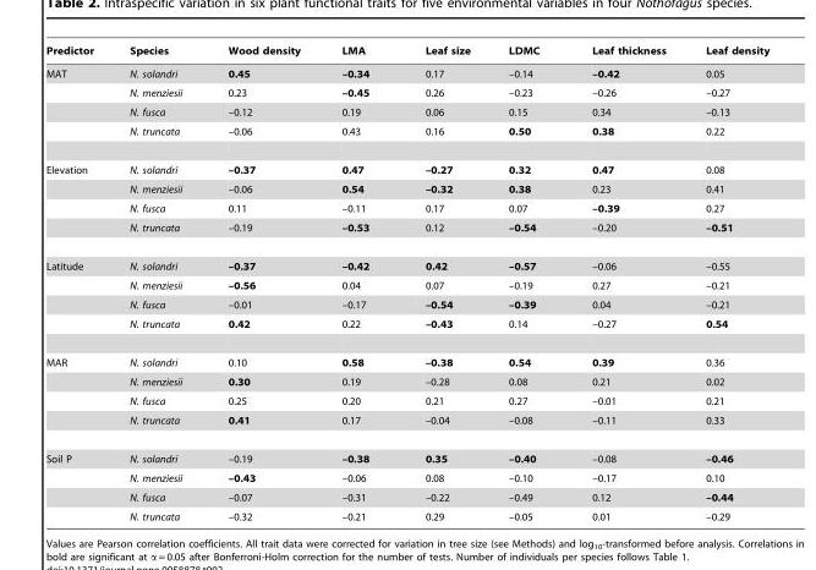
<table><thead><tr><td>Predictor</td><td>Species</td><td>Wood density</td><td>LMA</td><td>Leaf size</td><td>LDMC</td><td>Leaf thickness</td><td>Leaf density</td></tr></thead><tbody><tr><td rowspan="4">MAT</td><td>N. solandri</td><td>0.45</td><td>–0.34</td><td>0.17</td><td>–0.14</td><td>–0.42</td><td>0.05</td></tr><tr><td>N. menziesii</td><td>0.23</td><td>–0.45</td><td>0.26</td><td>–0.23</td><td>–0.26</td><td>–0.27</td></tr><tr><td>N. fusca</td><td>–0.12</td><td>0.19</td><td>0.06</td><td>0.15</td><td>0.34</td><td>–0.13</td></tr><tr><td>N. truncata</td><td>–0.06</td><td>0.43</td><td>0.16</td><td>0.50</td><td>0.38</td><td>0.22</td></tr><tr><td rowspan="4">Elevation</td><td>N. solandri</td><td>–0.37</td><td>0.47</td><td>–0.27</td><td>0.32</td><td>0.47</td><td>0.08</td></tr><tr><td>N. menziesii</td><td>–0.06</td><td>0.54</td><td>–0.32</td><td>0.38</td><td>0.23</td><td>0.41</td></tr><tr><td>N. fusca</td><td>0.11</td><td>–0.11</td><td>0.17</td><td>0.07</td><td>–0.39</td><td>0.27</td></tr><tr><td>N. truncata</td><td>–0.19</td><td>–0.53</td><td>0.12</td><td>–0.54</td><td>–0.20</td><td>–0.51</td></tr><tr><td rowspan="4">Latitude</td><td>N. solandri</td><td>–0.37</td><td>–0.42</td><td>0.42</td><td>–0.57</td><td>–0.06</td><td>–0.55</td></tr><tr><td>N. menziesii</td><td>–0.56</td><td>0.04</td><td>0.07</td><td>–0.19</td><td>0.27</td><td>–0.21</td></tr><tr><td>N. fusca</td><td>–0.01</td><td>–0.17</td><td>–0.54</td><td>–0.39</td><td>0.04</td><td>–0.21</td></tr><tr><td>N. truncata</td><td>0.42</td><td>0.22</td><td>–0.43</td><td>0.14</td><td>–0.27</td><td>0.54</td></tr><tr><td rowspan="4">MAR</td><td>N. solandri</td><td>0.10</td><td>0.58</td><td>–0.38</td><td>0.54</td><td>0.39</td><td>0.36</td></tr><tr><td>N. menziesii</td><td>0.30</td><td>0.19</td><td>–0.28</td><td>0.08</td><td>0.21</td><td>0.02</td></tr><tr><td>N. fusca</td><td>0.25</td><td>0.20</td><td>0.21</td><td>0.27</td><td>–0.01</td><td>0.21</td></tr><tr><td>N. truncata</td><td>0.41</td><td>0.17</td><td>–0.04</td><td>–0.08</td><td>–0.11</td><td>0.33</td></tr><tr><td rowspan="4">Soil P</td><td>N. solandri</td><td>–0.19</td><td>–0.38</td><td>0.35</td><td>–0.40</td><td>–0.08</td><td>–0.46</td></tr><tr><td>N. menziesii</td><td>–0.43</td><td>–0.06</td><td>0.08</td><td>–0.10</td><td>–0.17</td><td>0.10</td></tr><tr><td>N. fusca</td><td>–0.07</td><td>–0.31</td><td>–0.22</td><td>–0.49</td><td>0.12</td><td>–0.44</td></tr><tr><td>N. truncata</td><td>–0.32</td><td>–0.21</td><td>0.29</td><td>–0.05</td><td>0.01</td><td>–0.29</td></tr></tbody></table>